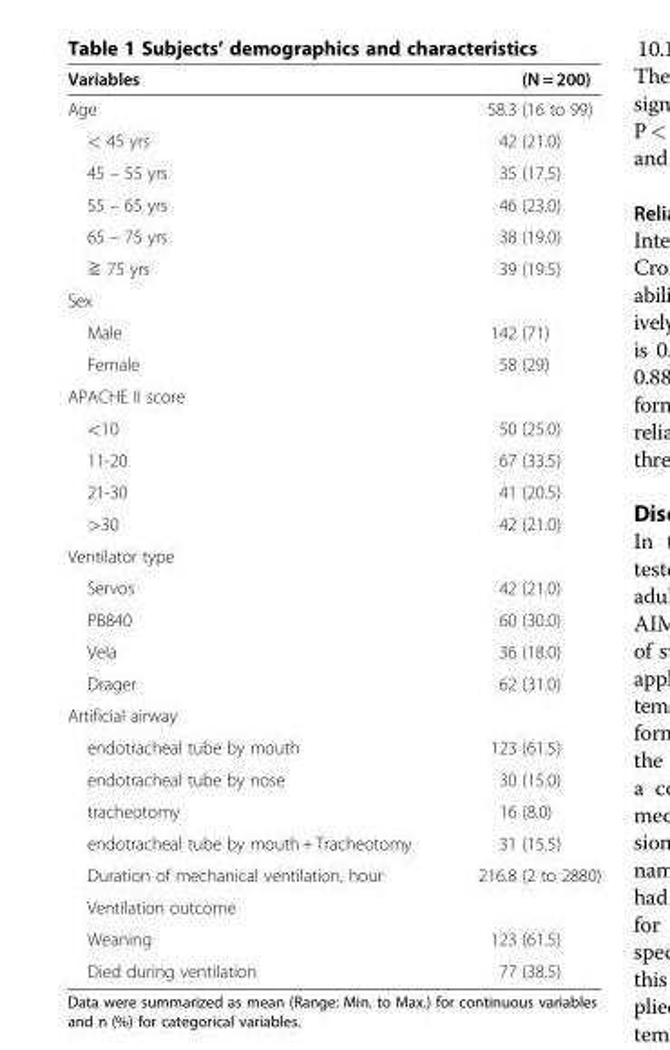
<table><thead><tr><td>Variables</td><td>(N = 200)</td></tr></thead><tbody><tr><td>Age</td><td>58.3 (16 to 99)</td></tr><tr><td>&lt; 45 yrs</td><td>42 (21.0)</td></tr><tr><td>45 – 55 yrs</td><td>35 (17.5)</td></tr><tr><td>55 – 65 yrs</td><td>46 (23.0)</td></tr><tr><td>65 – 75 yrs</td><td>38 (19.0)</td></tr><tr><td>≧ 75 yrs</td><td>39 (19.5)</td></tr><tr><td colspan="2">Sex</td></tr><tr><td>Male</td><td>142 (71)</td></tr><tr><td>Female</td><td>58 (29)</td></tr><tr><td colspan="2">APACHE II score</td></tr><tr><td>&lt;10</td><td>50 (25.0)</td></tr><tr><td>11-20</td><td>67 (33.5)</td></tr><tr><td>21-30</td><td>41 (20.5)</td></tr><tr><td>&gt;30</td><td>42 (21.0)</td></tr><tr><td colspan="2">Ventilator type</td></tr><tr><td>Servos</td><td>42 (21.0)</td></tr><tr><td>PB840</td><td>60 (30.0)</td></tr><tr><td>Vela</td><td>36 (18.0)</td></tr><tr><td>Drager</td><td>62 (31.0)</td></tr><tr><td colspan="2">Artificial airway</td></tr><tr><td>endotracheal tube by mouth</td><td>123 (61.5)</td></tr><tr><td>endotracheal tube by nose</td><td>30 (15.0)</td></tr><tr><td>tracheotomy</td><td>16 (8.0)</td></tr><tr><td>endotracheal tube by mouth + Tracheotomy</td><td>31 (15.5)</td></tr><tr><td>Duration of mechanical ventilation, hour</td><td>216.8 (2 to 2880)</td></tr><tr><td colspan="2">Ventilation outcome</td></tr><tr><td>Weaning</td><td>123 (61.5)</td></tr><tr><td>Died during ventilation</td><td>77 (38.5)</td></tr></tbody></table>